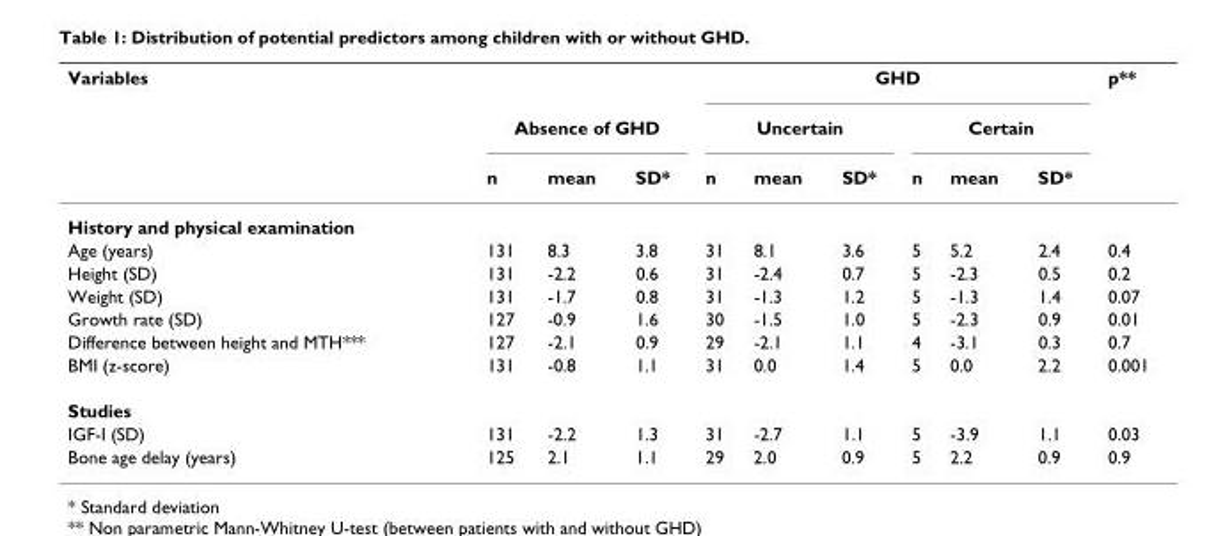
<table><thead><tr><td rowspan="3">Variables</td><td></td><td></td><td></td><td colspan="6">GHD</td><td rowspan="3">p**</td></tr><tr><td colspan="3">Absence of GHD</td><td colspan="3">Uncertain</td><td colspan="3">Certain</td></tr><tr><td>n</td><td>mean</td><td>SD*</td><td>n</td><td>mean</td><td>SD*</td><td>n</td><td>mean</td><td>SD*</td></tr></thead><tbody><tr><td colspan="11">History and physical examination</td></tr><tr><td>Age (years)</td><td>131</td><td>8.3</td><td>3.8</td><td>31</td><td>8.1</td><td>3.6</td><td>5</td><td>5.2</td><td>2.4</td><td>0.4</td></tr><tr><td>Height (SD)</td><td>131</td><td>-2.2</td><td>0.6</td><td>31</td><td>-2.4</td><td>0.7</td><td>5</td><td>-2.3</td><td>0.5</td><td>0.2</td></tr><tr><td>Weight (SD)</td><td>131</td><td>-1.7</td><td>0.8</td><td>31</td><td>-1.3</td><td>1.2</td><td>5</td><td>-1.3</td><td>1.4</td><td>0.07</td></tr><tr><td>Growth rate (SD)</td><td>127</td><td>-0.9</td><td>1.6</td><td>30</td><td>-1.5</td><td>1.0</td><td>5</td><td>-2.3</td><td>0.9</td><td>0.01</td></tr><tr><td>Difference between height and MTH***</td><td>127</td><td>-2.1</td><td>0.9</td><td>29</td><td>-2.1</td><td>1.1</td><td>4</td><td>-3.1</td><td>0.3</td><td>0.7</td></tr><tr><td>BMI (z-score)</td><td>131</td><td>-0.8</td><td>1.1</td><td>31</td><td>0.0</td><td>1.4</td><td>5</td><td>0.0</td><td>2.2</td><td>0.001</td></tr><tr><td colspan="11">Studies</td></tr><tr><td>IGF-I (SD)</td><td>131</td><td>-2.2</td><td>1.3</td><td>31</td><td>-2.7</td><td>1.1</td><td>5</td><td>-3.9</td><td>1.1</td><td>0.03</td></tr><tr><td>Bone age delay (years)</td><td>125</td><td>2.1</td><td>1.1</td><td>29</td><td>2.0</td><td>0.9</td><td>5</td><td>2.2</td><td>0.9</td><td>0.9</td></tr></tbody></table>